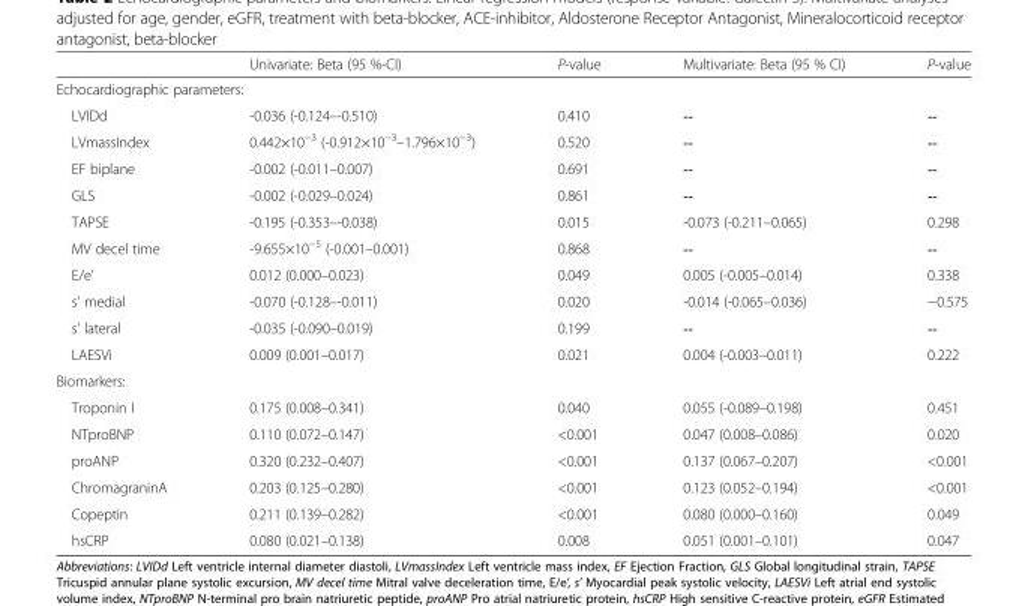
<table><thead><tr><td></td><td>Univariate: Beta (95 %-CI)</td><td>P-value</td><td>Multivariate: Beta (95 % CI)</td><td>P-value</td></tr></thead><tbody><tr><td colspan="5">Echocardiographic parameters:</td></tr><tr><td>LVIDd</td><td>-0.036 (-0.124–-0.510)</td><td>0.410</td><td>--</td><td>--</td></tr><tr><td>LVmassIndex</td><td>0.442×10<sup>−3</sup> (-0.912×10<sup>−3</sup>–1.796×10<sup>−3</sup>)</td><td>0.520</td><td>--</td><td>--</td></tr><tr><td>EF biplane</td><td>-0.002 (-0.011–0.007)</td><td>0.691</td><td>--</td><td>--</td></tr><tr><td>GLS</td><td>-0.002 (-0.029–0.024)</td><td>0.861</td><td>--</td><td>--</td></tr><tr><td>TAPSE</td><td>-0.195 (-0.353–-0.038)</td><td>0.015</td><td>-0.073 (-0.211–0.065)</td><td>0.298</td></tr><tr><td>MV decel time</td><td>-9.655×10<sup>−5</sup> (-0.001–0.001)</td><td>0.868</td><td>--</td><td>--</td></tr><tr><td>E/e’</td><td>0.012 (0.000–0.023)</td><td>0.049</td><td>0.005 (-0.005–0.014)</td><td>0.338</td></tr><tr><td>s’ medial</td><td>-0.070 (-0.128–-0.011)</td><td>0.020</td><td>-0.014 (-0.065–0.036)</td><td>−0.575</td></tr><tr><td>s’ lateral</td><td>-0.035 (-0.090–0.019)</td><td>0.199</td><td>--</td><td>--</td></tr><tr><td>LAESVi</td><td>0.009 (0.001–0.017)</td><td>0.021</td><td>0.004 (-0.003–0.011)</td><td>0.222</td></tr><tr><td colspan="5">Biomarkers:</td></tr><tr><td>Troponin I</td><td>0.175 (0.008–0.341)</td><td>0.040</td><td>0.055 (-0.089–0.198)</td><td>0.451</td></tr><tr><td>NTproBNP</td><td>0.110 (0.072–0.147)</td><td>&lt;0.001</td><td>0.047 (0.008–0.086)</td><td>0.020</td></tr><tr><td>proANP</td><td>0.320 (0.232–0.407)</td><td>&lt;0.001</td><td>0.137 (0.067–0.207)</td><td>&lt;0.001</td></tr><tr><td>ChromagraninA</td><td>0.203 (0.125–0.280)</td><td>&lt;0.001</td><td>0.123 (0.052–0.194)</td><td>&lt;0.001</td></tr><tr><td>Copeptin</td><td>0.211 (0.139–0.282)</td><td>&lt;0.001</td><td>0.080 (0.000–0.160)</td><td>0.049</td></tr><tr><td>hsCRP</td><td>0.080 (0.021–0.138)</td><td>0.008</td><td>0.051 (0.001–0.101)</td><td>0.047</td></tr></tbody></table>